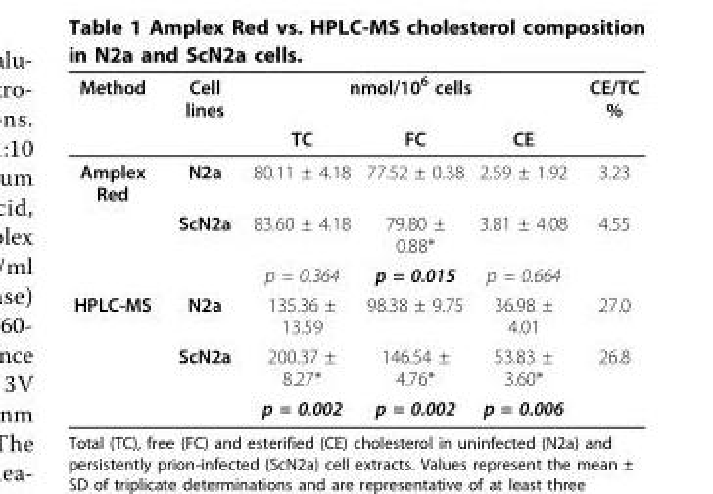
<table><thead><tr><td rowspan="2">Method</td><td rowspan="2">Cell lines</td><td colspan="3">nmol/10<sup>6</sup> cells</td><td rowspan="2">CE/TC %</td></tr><tr><td>TC</td><td>FC</td><td>CE</td></tr></thead><tbody><tr><td rowspan="3">Amplex Red</td><td>N2a</td><td>80.11 ± 4.18</td><td>77.52 ± 0.38</td><td>2.59 ± 1.92</td><td>3.23</td></tr><tr><td>ScN2a</td><td>83.60 ± 4.18</td><td>79.80 ± 0.88*</td><td>3.81 ± 4.08</td><td>4.55</td></tr><tr><td></td><td>p = 0.364</td><td>p = 0.015</td><td>p = 0.664</td><td></td></tr><tr><td rowspan="3">HPLC-MS</td><td>N2a</td><td>135.36 ± 13.59</td><td>98.38 ± 9.75</td><td>36.98 ± 4.01</td><td>27.0</td></tr><tr><td>ScN2a</td><td>200.37 ± 8.27*</td><td>146.54 ± 4.76*</td><td>53.83 ± 3.60*</td><td>26.8</td></tr><tr><td></td><td>p = 0.002</td><td>p = 0.002</td><td>p = 0.006</td><td></td></tr></tbody></table>